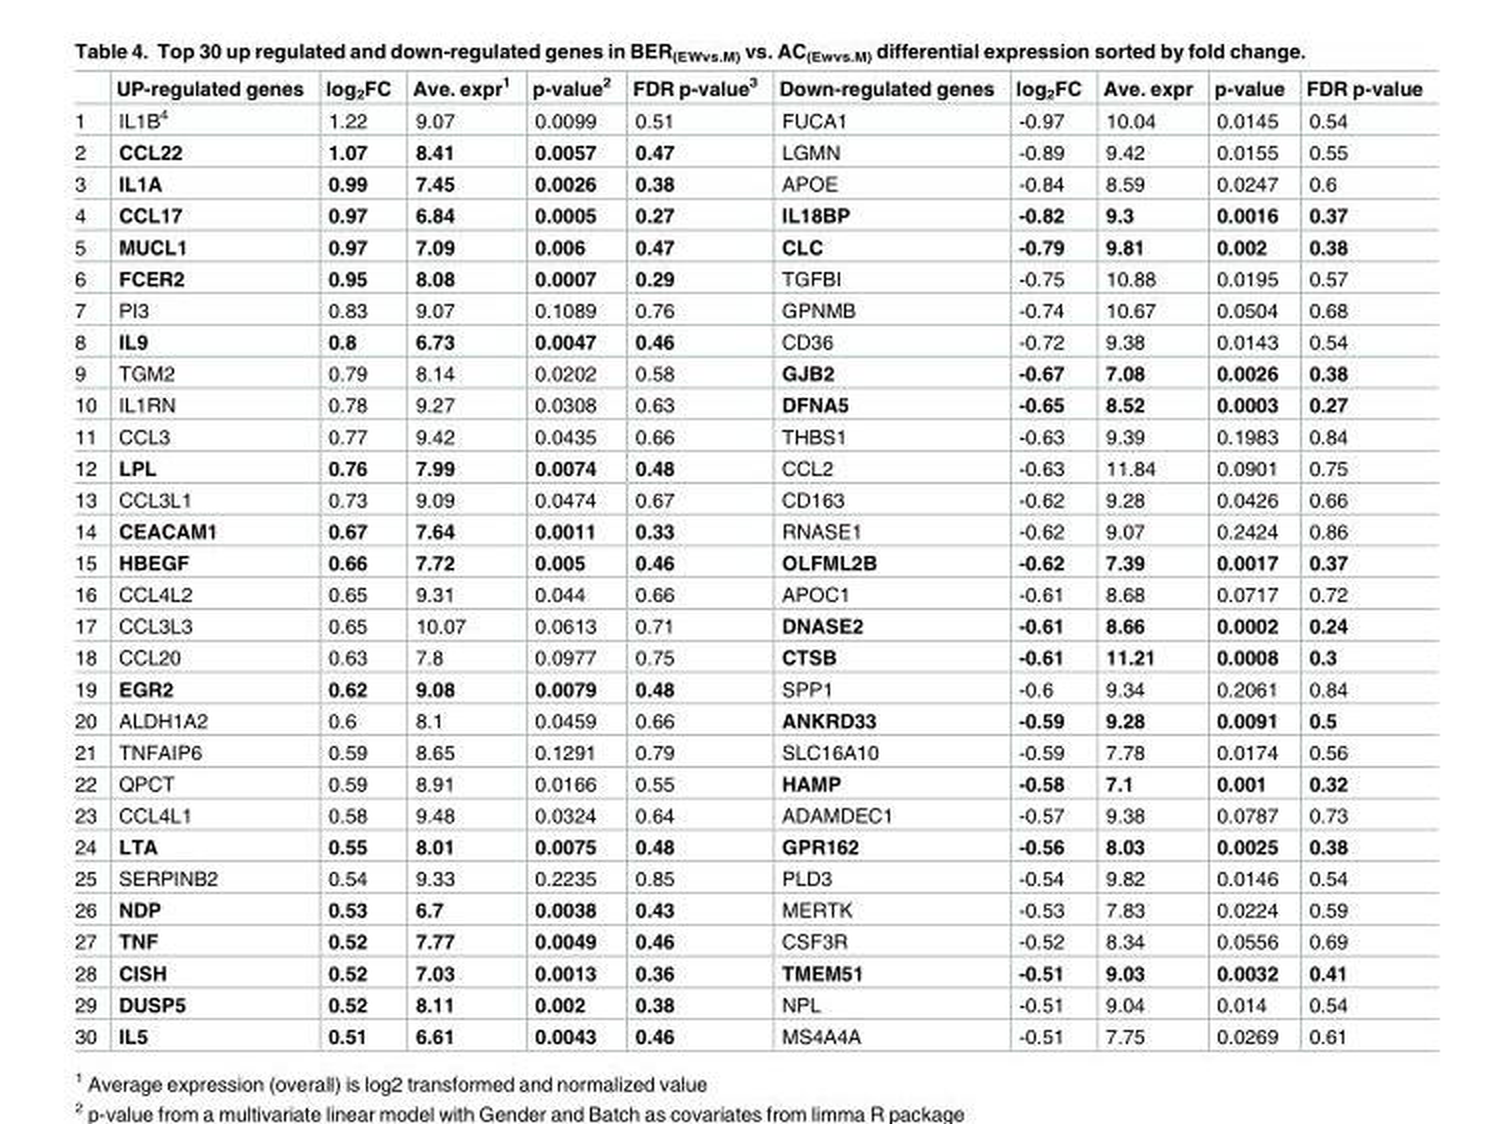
<table><thead><tr><td></td><td>UP-regulated genes</td><td>log<sub>2</sub>FC</td><td>Ave. expr<sup>1</sup></td><td>p-value<sup>2</sup></td><td>FDR p-value<sup>3</sup></td><td>Down-regulated genes</td><td>log<sub>2</sub>FC</td><td>Ave. expr</td><td>p-value</td><td>FDR p-value</td></tr></thead><tbody><tr><td>1</td><td>IL1B<sup>4</sup></td><td>1.22</td><td>9.07</td><td>0.0099</td><td>0.51</td><td>FUCA1</td><td>-0.97</td><td>10.04</td><td>0.0145</td><td>0.54</td></tr><tr><td>2</td><td>CCL22</td><td>1.07</td><td>8.41</td><td>0.0057</td><td>0.47</td><td>LGMN</td><td>-0.89</td><td>9.42</td><td>0.0155</td><td>0.55</td></tr><tr><td>3</td><td>IL1A</td><td>0.99</td><td>7.45</td><td>0.0026</td><td>0.38</td><td>APOE</td><td>-0.84</td><td>8.59</td><td>0.0247</td><td>0.6</td></tr><tr><td>4</td><td>CCL17</td><td>0.97</td><td>6.84</td><td>0.0005</td><td>0.27</td><td>IL18BP</td><td>-0.82</td><td>9.3</td><td>0.0016</td><td>0.37</td></tr><tr><td>5</td><td>MUCL1</td><td>0.97</td><td>7.09</td><td>0.006</td><td>0.47</td><td>CLC</td><td>-0.79</td><td>9.81</td><td>0.002</td><td>0.38</td></tr><tr><td>6</td><td>FCER2</td><td>0.95</td><td>8.08</td><td>0.0007</td><td>0.29</td><td>TGFBI</td><td>-0.75</td><td>10.88</td><td>0.0195</td><td>0.57</td></tr><tr><td>7</td><td>PI3</td><td>0.83</td><td>9.07</td><td>0.1089</td><td>0.76</td><td>GPNMB</td><td>-0.74</td><td>10.67</td><td>0.0504</td><td>0.68</td></tr><tr><td>8</td><td>IL9</td><td>0.8</td><td>6.73</td><td>0.0047</td><td>0.46</td><td>CD36</td><td>-0.72</td><td>9.38</td><td>0.0143</td><td>0.54</td></tr><tr><td>9</td><td>TGM2</td><td>0.79</td><td>8.14</td><td>0.0202</td><td>0.58</td><td>GJB2</td><td>-0.67</td><td>7.08</td><td>0.0026</td><td>0.38</td></tr><tr><td>10</td><td>IL1RN</td><td>0.78</td><td>9.27</td><td>0.0308</td><td>0.63</td><td>DFNA5</td><td>-0.65</td><td>8.52</td><td>0.0003</td><td>0.27</td></tr><tr><td>11</td><td>CCL3</td><td>0.77</td><td>9.42</td><td>0.0435</td><td>0.66</td><td>THBS1</td><td>-0.63</td><td>9.39</td><td>0.1983</td><td>0.84</td></tr><tr><td>12</td><td>LPL</td><td>0.76</td><td>7.99</td><td>0.0074</td><td>0.48</td><td>CCL2</td><td>-0.63</td><td>11.84</td><td>0.0901</td><td>0.75</td></tr><tr><td>13</td><td>CCL3L1</td><td>0.73</td><td>9.09</td><td>0.0474</td><td>0.67</td><td>CD163</td><td>-0.62</td><td>9.28</td><td>0.0426</td><td>0.66</td></tr><tr><td>14</td><td>CEACAM1</td><td>0.67</td><td>7.64</td><td>0.0011</td><td>0.33</td><td>RNASE1</td><td>-0.62</td><td>9.07</td><td>0.2424</td><td>0.86</td></tr><tr><td>15</td><td>HBEGF</td><td>0.66</td><td>7.72</td><td>0.005</td><td>0.46</td><td>OLFML2B</td><td>-0.62</td><td>7.39</td><td>0.0017</td><td>0.37</td></tr><tr><td>16</td><td>CCL4L2</td><td>0.65</td><td>9.31</td><td>0.044</td><td>0.66</td><td>APOC1</td><td>-0.61</td><td>8.68</td><td>0.0717</td><td>0.72</td></tr><tr><td>17</td><td>CCL3L3</td><td>0.65</td><td>10.07</td><td>0.0613</td><td>0.71</td><td>DNASE2</td><td>-0.61</td><td>8.66</td><td>0.0002</td><td>0.24</td></tr><tr><td>18</td><td>CCL20</td><td>0.63</td><td>7.8</td><td>0.0977</td><td>0.75</td><td>CTSB</td><td>-0.61</td><td>11.21</td><td>0.0008</td><td>0.3</td></tr><tr><td>19</td><td>EGR2</td><td>0.62</td><td>9.08</td><td>0.0079</td><td>0.48</td><td>SPP1</td><td>-0.6</td><td>9.34</td><td>0.2061</td><td>0.84</td></tr><tr><td>20</td><td>ALDH1A2</td><td>0.6</td><td>8.1</td><td>0.0459</td><td>0.66</td><td>ANKRD33</td><td>-0.59</td><td>9.28</td><td>0.0091</td><td>0.5</td></tr><tr><td>21</td><td>TNFAIP6</td><td>0.59</td><td>8.65</td><td>0.1291</td><td>0.79</td><td>SLC16A10</td><td>-0.59</td><td>7.78</td><td>0.0174</td><td>0.56</td></tr><tr><td>22</td><td>QPCT</td><td>0.59</td><td>8.91</td><td>0.0166</td><td>0.55</td><td>HAMP</td><td>-0.58</td><td>7.1</td><td>0.001</td><td>0.32</td></tr><tr><td>23</td><td>CCL4L1</td><td>0.58</td><td>9.48</td><td>0.0324</td><td>0.64</td><td>ADAMDEC1</td><td>-0.57</td><td>9.38</td><td>0.0787</td><td>0.73</td></tr><tr><td>24</td><td>LTA</td><td>0.55</td><td>8.01</td><td>0.0075</td><td>0.48</td><td>GPR162</td><td>-0.56</td><td>8.03</td><td>0.0025</td><td>0.38</td></tr><tr><td>25</td><td>SERPINB2</td><td>0.54</td><td>9.33</td><td>0.2235</td><td>0.85</td><td>PLD3</td><td>-0.54</td><td>9.82</td><td>0.0146</td><td>0.54</td></tr><tr><td>26</td><td>NDP</td><td>0.53</td><td>6.7</td><td>0.0038</td><td>0.43</td><td>MERTK</td><td>-0.53</td><td>7.83</td><td>0.0224</td><td>0.59</td></tr><tr><td>27</td><td>TNF</td><td>0.52</td><td>7.77</td><td>0.0049</td><td>0.46</td><td>CSF3R</td><td>-0.52</td><td>8.34</td><td>0.0556</td><td>0.69</td></tr><tr><td>28</td><td>CISH</td><td>0.52</td><td>7.03</td><td>0.0013</td><td>0.36</td><td>TMEM51</td><td>-0.51</td><td>9.03</td><td>0.0032</td><td>0.41</td></tr><tr><td>29</td><td>DUSP5</td><td>0.52</td><td>8.11</td><td>0.002</td><td>0.38</td><td>NPL</td><td>-0.51</td><td>9.04</td><td>0.014</td><td>0.54</td></tr><tr><td>30</td><td>IL5</td><td>0.51</td><td>6.61</td><td>0.0043</td><td>0.46</td><td>MS4A4A</td><td>-0.51</td><td>7.75</td><td>0.0269</td><td>0.61</td></tr></tbody></table>